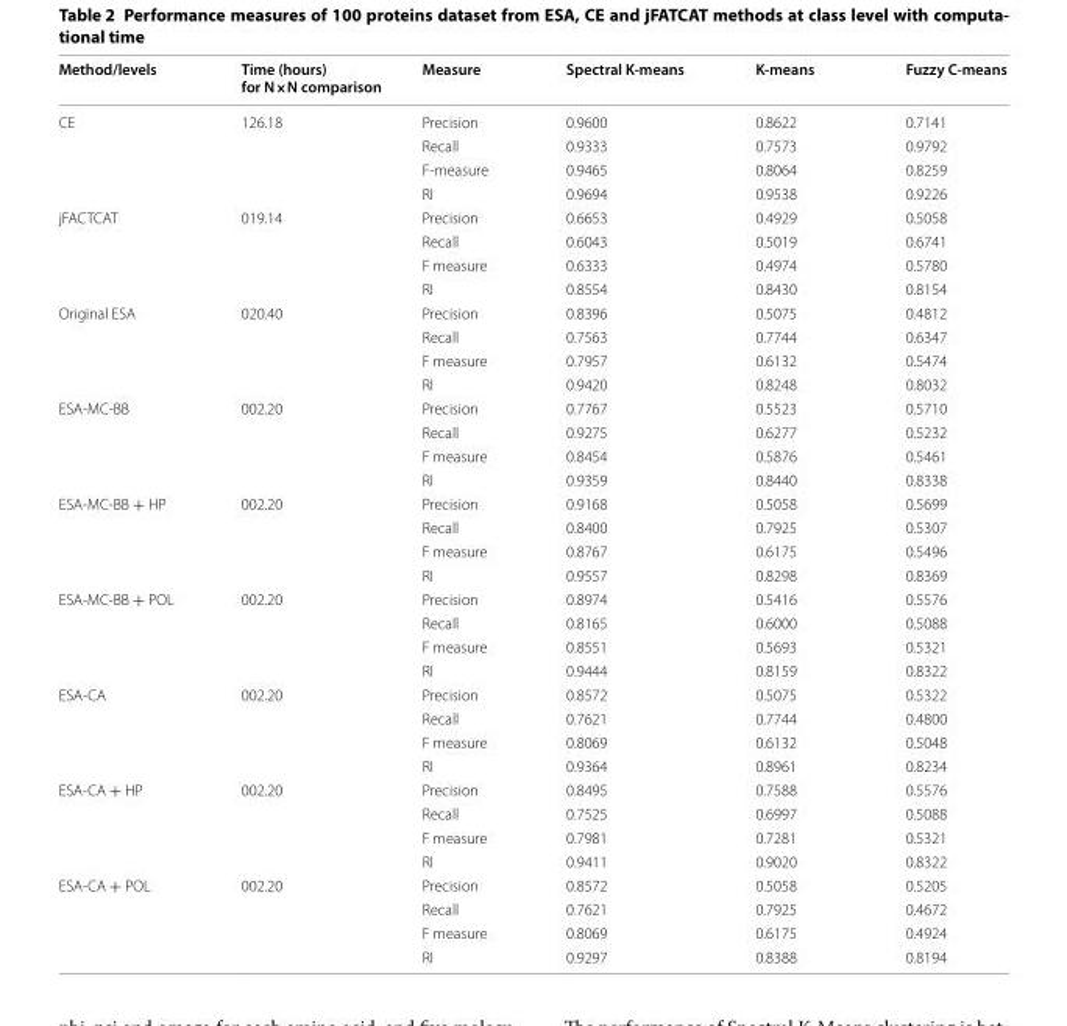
<table><thead><tr><td>Method/levels</td><td>Time (hours) for N×N comparison</td><td>Measure</td><td>Spectral K-means</td><td>K-means</td><td>Fuzzy C-means</td></tr></thead><tbody><tr><td rowspan="4">CE</td><td rowspan="4">126.18</td><td>Precision</td><td>0.9600</td><td>0.8622</td><td>0.7141</td></tr><tr><td>Recall</td><td>0.9333</td><td>0.7573</td><td>0.9792</td></tr><tr><td>F-measure</td><td>0.9465</td><td>0.8064</td><td>0.8259</td></tr><tr><td>RI</td><td>0.9694</td><td>0.9538</td><td>0.9226</td></tr><tr><td rowspan="4">jFACTCAT</td><td rowspan="4">019.14</td><td>Precision</td><td>0.6653</td><td>0.4929</td><td>0.5058</td></tr><tr><td>Recall</td><td>0.6043</td><td>0.5019</td><td>0.6741</td></tr><tr><td>F measure</td><td>0.6333</td><td>0.4974</td><td>0.5780</td></tr><tr><td>RI</td><td>0.8554</td><td>0.8430</td><td>0.8154</td></tr><tr><td rowspan="4">Original ESA</td><td rowspan="4">020.40</td><td>Precision</td><td>0.8396</td><td>0.5075</td><td>0.4812</td></tr><tr><td>Recall</td><td>0.7563</td><td>0.7744</td><td>0.6347</td></tr><tr><td>F measure</td><td>0.7957</td><td>0.6132</td><td>0.5474</td></tr><tr><td>RI</td><td>0.9420</td><td>0.8248</td><td>0.8032</td></tr><tr><td rowspan="4">ESA-MC-BB</td><td rowspan="4">002.20</td><td>Precision</td><td>0.7767</td><td>0.5523</td><td>0.5710</td></tr><tr><td>Recall</td><td>0.9275</td><td>0.6277</td><td>0.5232</td></tr><tr><td>F measure</td><td>0.8454</td><td>0.5876</td><td>0.5461</td></tr><tr><td>RI</td><td>0.9359</td><td>0.8440</td><td>0.8338</td></tr><tr><td rowspan="4">ESA-MC-BB + HP</td><td rowspan="4">002.20</td><td>Precision</td><td>0.9168</td><td>0.5058</td><td>0.5699</td></tr><tr><td>Recall</td><td>0.8400</td><td>0.7925</td><td>0.5307</td></tr><tr><td>F measure</td><td>0.8767</td><td>0.6175</td><td>0.5496</td></tr><tr><td>RI</td><td>0.9557</td><td>0.8298</td><td>0.8369</td></tr><tr><td rowspan="4">ESA-MC-BB + POL</td><td rowspan="4">002.20</td><td>Precision</td><td>0.8974</td><td>0.5416</td><td>0.5576</td></tr><tr><td>Recall</td><td>0.8165</td><td>0.6000</td><td>0.5088</td></tr><tr><td>F measure</td><td>0.8551</td><td>0.5693</td><td>0.5321</td></tr><tr><td>RI</td><td>0.9444</td><td>0.8159</td><td>0.8322</td></tr><tr><td rowspan="4">ESA-CA</td><td rowspan="4">002.20</td><td>Precision</td><td>0.8572</td><td>0.5075</td><td>0.5322</td></tr><tr><td>Recall</td><td>0.7621</td><td>0.7744</td><td>0.4800</td></tr><tr><td>F measure</td><td>0.8069</td><td>0.6132</td><td>0.5048</td></tr><tr><td>RI</td><td>0.9364</td><td>0.8961</td><td>0.8234</td></tr><tr><td rowspan="4">ESA-CA + HP</td><td rowspan="4">002.20</td><td>Precision</td><td>0.8495</td><td>0.7588</td><td>0.5576</td></tr><tr><td>Recall</td><td>0.7525</td><td>0.6997</td><td>0.5088</td></tr><tr><td>F measure</td><td>0.7981</td><td>0.7281</td><td>0.5321</td></tr><tr><td>RI</td><td>0.9411</td><td>0.9020</td><td>0.8322</td></tr><tr><td rowspan="4">ESA-CA + POL</td><td rowspan="4">002.20</td><td>Precision</td><td>0.8572</td><td>0.5058</td><td>0.5205</td></tr><tr><td>Recall</td><td>0.7621</td><td>0.7925</td><td>0.4672</td></tr><tr><td>F measure</td><td>0.8069</td><td>0.6175</td><td>0.4924</td></tr><tr><td>RI</td><td>0.9297</td><td>0.8388</td><td>0.8194</td></tr></tbody></table>